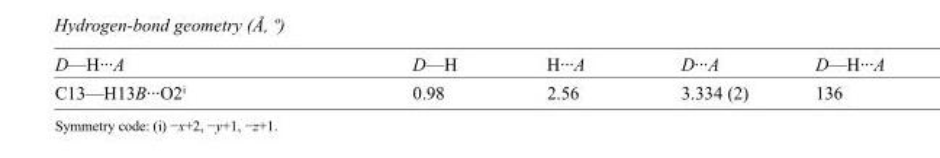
<table><tbody><tr><td>D—H···A</td><td>D—H</td><td>H···A</td><td>D···A</td><td>D—H···A</td></tr><tr><td>C13—H13B···O2<sup>i</sup></td><td>0.98</td><td>2.56</td><td>3.334 (2)</td><td>136</td></tr></tbody></table>